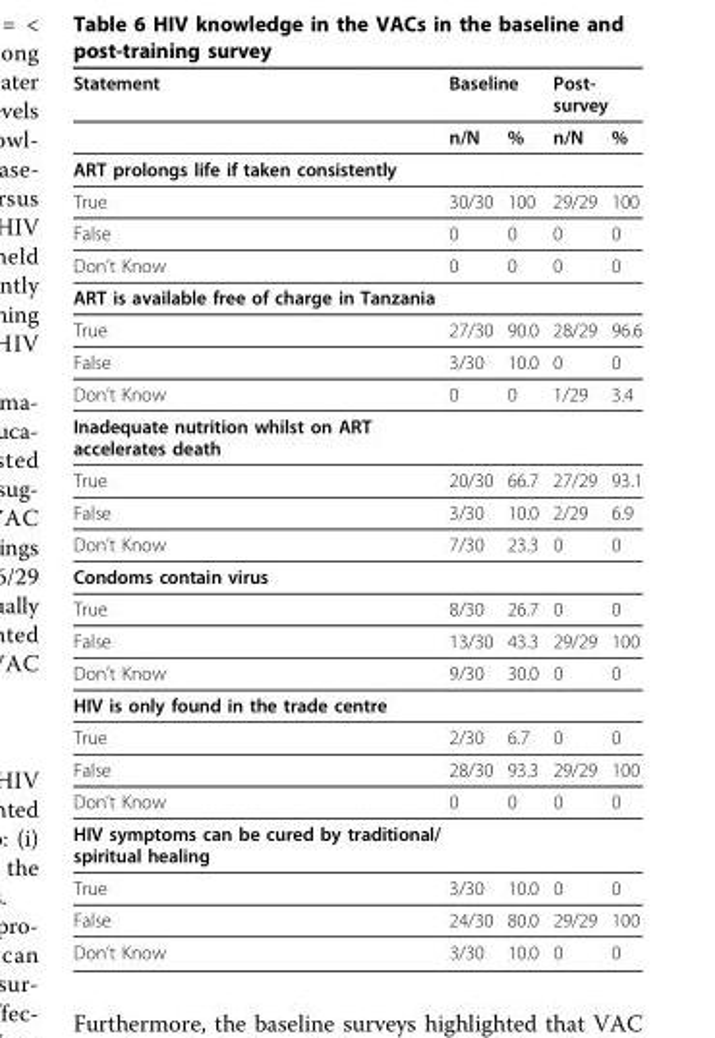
<table><thead><tr><td rowspan="2">Statement</td><td colspan="2">Baseline</td><td colspan="2">Post- survey</td></tr><tr><td>n/N</td><td>%</td><td>n/N</td><td>%</td></tr></thead><tbody><tr><td colspan="5">ART prolongs life if taken consistently</td></tr><tr><td>True</td><td>30/30</td><td>100</td><td>29/29</td><td>100</td></tr><tr><td>False</td><td>0</td><td>0</td><td>0</td><td>0</td></tr><tr><td>Don’t Know</td><td>0</td><td>0</td><td>0</td><td>0</td></tr><tr><td colspan="5">ART is available free of charge in Tanzania</td></tr><tr><td>True</td><td>27/30</td><td>90.0</td><td>28/29</td><td>96.6</td></tr><tr><td>False</td><td>3/30</td><td>10.0</td><td>0</td><td>0</td></tr><tr><td>Don’t Know</td><td>0</td><td>0</td><td>1/29</td><td>3.4</td></tr><tr><td colspan="5">Inadequate nutrition whilst on ART accelerates death</td></tr><tr><td>True</td><td>20/30</td><td>66.7</td><td>27/29</td><td>93.1</td></tr><tr><td>False</td><td>3/30</td><td>10.0</td><td>2/29</td><td>6.9</td></tr><tr><td>Don’t Know</td><td>7/30</td><td>23.3</td><td>0</td><td>0</td></tr><tr><td colspan="5">Condoms contain virus</td></tr><tr><td>True</td><td>8/30</td><td>26.7</td><td>0</td><td>0</td></tr><tr><td>False</td><td>13/30</td><td>43.3</td><td>29/29</td><td>100</td></tr><tr><td>Don’t Know</td><td>9/30</td><td>30.0</td><td>0</td><td>0</td></tr><tr><td colspan="5">HIV is only found in the trade centre</td></tr><tr><td>True</td><td>2/30</td><td>6.7</td><td>0</td><td>0</td></tr><tr><td>False</td><td>28/30</td><td>93.3</td><td>29/29</td><td>100</td></tr><tr><td>Don’t Know</td><td>0</td><td>0</td><td>0</td><td>0</td></tr><tr><td colspan="5">HIV symptoms can be cured by traditional/ spiritual healing</td></tr><tr><td>True</td><td>3/30</td><td>10.0</td><td>0</td><td>0</td></tr><tr><td>False</td><td>24/30</td><td>80.0</td><td>29/29</td><td>100</td></tr><tr><td>Don’t Know</td><td>3/30</td><td>10.0</td><td>0</td><td>0</td></tr></tbody></table>